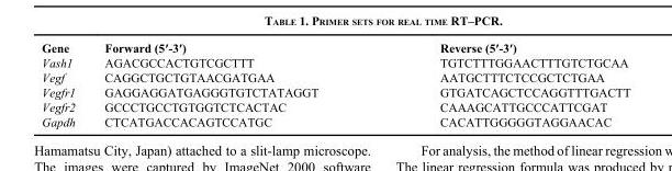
<table><thead><tr><td>Gene</td><td>Forward (5′-3′)</td><td>Reverse (5′-3′)</td></tr></thead><tbody><tr><td>Vash1</td><td>AGACGCCACTGTCGCTTT</td><td>TGTCTTTGGAACTTTGTCTGCAA</td></tr><tr><td>Vegf</td><td>CAGGCTGCTGTAACGATGAA</td><td>AATGCTTTCTCCGCTCTGAA</td></tr><tr><td>Vegfr1</td><td>GAGGAGGATGAGGGTGTCTATAGGT</td><td>GTGATCAGCTCCAGGTTTGACTT</td></tr><tr><td>Vegfr2</td><td>GCCCTGCCTGTGGTCTCACTAC</td><td>CAAAGCATTGCCCATTCGAT</td></tr><tr><td>Gapdh</td><td>CTCATGACCACAGTCCATGC</td><td>CACATTGGGGGTAGGAACAC</td></tr></tbody></table>